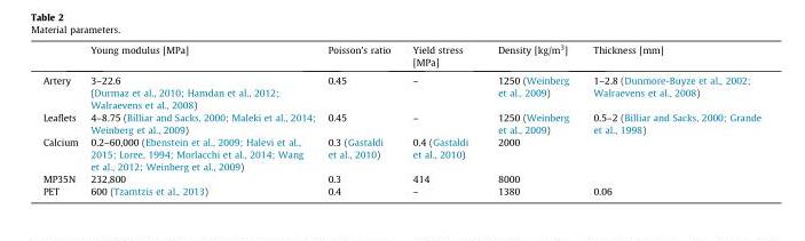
<table><thead><tr><td></td><td>Young modulus [MPa]</td><td>Poisson’s ratio</td><td>Yield stress [MPa]</td><td>Density [kg/m<sup>3</sup>]</td><td>Thickness [mm]</td></tr></thead><tbody><tr><td>Artery</td><td>3–22.6 (Durmaz et al., 2010; Hamdan et al., 2012; Walraevens et al., 2008)</td><td>0.45</td><td>–</td><td>1250 (Weinberg et al., 2009)</td><td>1–2.8 (Dunmore-Buyze et al., 2002; Walraevens et al., 2008)</td></tr><tr><td>Leaflets</td><td>4–8.75 (Billiar and Sacks, 2000; Maleki et al., 2014; Weinberg et al., 2009)</td><td>0.45</td><td>–</td><td>1250 (Weinberg et al., 2009)</td><td>0.5–2 (Billiar and Sacks, 2000; Grande et al., 1998)</td></tr><tr><td>Calcium</td><td>0.2–60,000 (Ebenstein et al., 2009; Halevi et al., 2015; Loree, 1994; Morlacchi et al., 2014; Wang et al., 2012; Weinberg et al., 2009)</td><td>0.3 (Gastaldi et al., 2010)</td><td>0.4 (Gastaldi et al., 2010)</td><td>2000</td><td></td></tr><tr><td>MP35N</td><td>232,800</td><td>0.3</td><td>414</td><td>8000</td><td></td></tr><tr><td>PET</td><td>600 (Tzamtzis et al., 2013)</td><td>0.4</td><td>–</td><td>1380</td><td>0.06</td></tr></tbody></table>